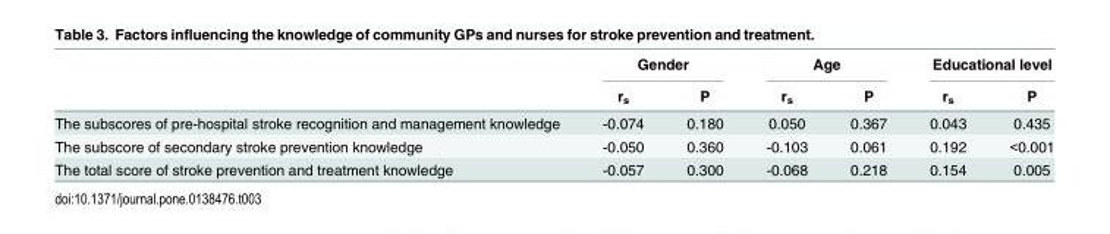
<table><thead><tr><td rowspan="2"></td><td colspan="2">Gender</td><td colspan="2">Age</td><td colspan="2">Educational level</td></tr><tr><td>r<sub>s</sub></td><td>P</td><td>r<sub>s</sub></td><td>P</td><td>r<sub>s</sub></td><td>P</td></tr></thead><tbody><tr><td>The subscores of pre-hospital stroke recognition and management knowledge</td><td>-0.074</td><td>0.180</td><td>0.050</td><td>0.367</td><td>0.043</td><td>0.435</td></tr><tr><td>The subscore of secondary stroke prevention knowledge</td><td>-0.050</td><td>0.360</td><td>-0.103</td><td>0.061</td><td>0.192</td><td>&lt;0.001</td></tr><tr><td>The total score of stroke prevention and treatment knowledge</td><td>-0.057</td><td>0.300</td><td>-0.068</td><td>0.218</td><td>0.154</td><td>0.005</td></tr></tbody></table>